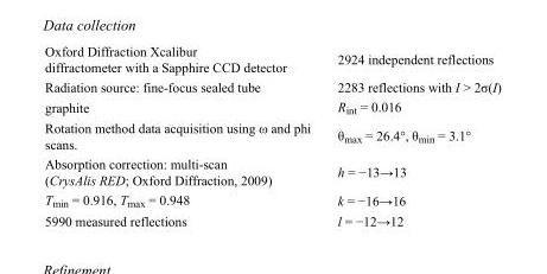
<table><tbody><tr><td>Oxford Diffraction Xcalibur diffractometer with a Sapphire CCD detector</td><td>2924 independent reflections</td></tr><tr><td>Radiation source: fine-focus sealed tube</td><td>2283 reflections with I &gt; 2σ(I)</td></tr><tr><td>graphite</td><td>R<sub>int</sub> = 0.016</td></tr><tr><td>Rotation method data acquisition using ω and phi scans.</td><td>θ<sub>max</sub> = 26.4°, θ<sub>min</sub> = 3.1°</td></tr><tr><td>Absorption correction: multi-scan (CrysAlis RED; Oxford Diffraction, 2009)</td><td>h = −13→13</td></tr><tr><td>T<sub>min</sub> = 0.916, T<sub>max</sub> = 0.948</td><td>k = −16→16</td></tr><tr><td>5990 measured reflections</td><td>l = −12→12</td></tr></tbody></table>